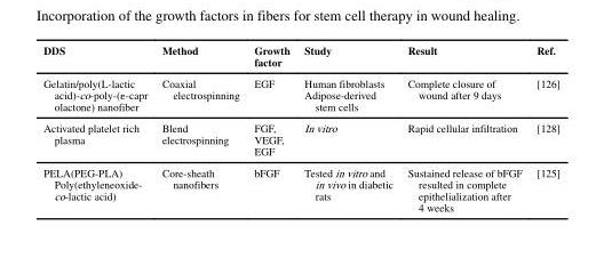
<table><thead><tr><td>DDS</td><td>Method</td><td>Growth factor</td><td>Study</td><td>Result</td><td>Ref.</td></tr></thead><tbody><tr><td>Gelatin/poly(L-lactic acid)-co-poly-(ε-capr olactone) nanofiber</td><td>Coaxial electrospinning</td><td>EGF</td><td>Human fibroblasts Adipose-derived stem cells</td><td>Complete closure of wound after 9 days</td><td>[126]</td></tr><tr><td>Activated platelet rich plasma</td><td>Blend electrospinning</td><td>FGF, VEGF, EGF</td><td>In vitro</td><td>Rapid cellular infiltration</td><td>[128]</td></tr><tr><td>PELA(PEG-PLA) Poly(ethyleneoxide- co-lactic acid)</td><td>Core-sheath nanofibers</td><td>bFGF</td><td>Tested in vitro and in vivo in diabetic rats</td><td>Sustained release of bFGF resulted in complete epithelialization after 4 weeks</td><td>[125]</td></tr></tbody></table>